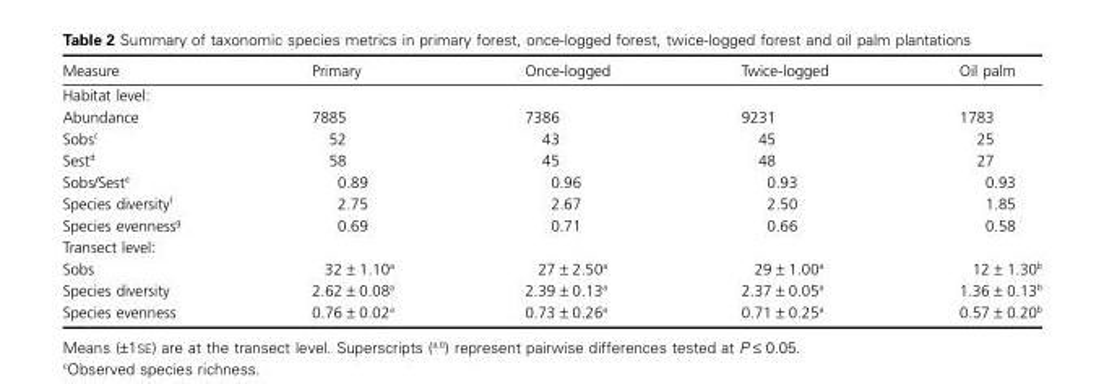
<table><thead><tr><td>Measure</td><td>Primary</td><td>Once-logged</td><td>Twice-logged</td><td>Oil palm</td></tr></thead><tbody><tr><td colspan="5">Habitat level:</td></tr><tr><td>Abundance</td><td>7885</td><td>7386</td><td>9231</td><td>1783</td></tr><tr><td>Sobs<sup>c</sup></td><td>52</td><td>43</td><td>45</td><td>25</td></tr><tr><td>Sest<sup>d</sup></td><td>58</td><td>45</td><td>48</td><td>27</td></tr><tr><td>Sobs/Sest<sup>e</sup></td><td>0.89</td><td>0.96</td><td>0.93</td><td>0.93</td></tr><tr><td>Species diversity<sup>f</sup></td><td>2.75</td><td>2.67</td><td>2.50</td><td>1.85</td></tr><tr><td>Species evenness<sup>g</sup></td><td>0.69</td><td>0.71</td><td>0.66</td><td>0.58</td></tr><tr><td colspan="5">Transect level:</td></tr><tr><td>Sobs</td><td>32 ± 1.10<sup>a</sup></td><td>27 ± 2.50<sup>a</sup></td><td>29 ± 1.00<sup>a</sup></td><td>12 ± 1.30<sup>b</sup></td></tr><tr><td>Species diversity</td><td>2.62 ± 0.08<sup>a</sup></td><td>2.39 ± 0.13<sup>a</sup></td><td>2.37 ± 0.05<sup>a</sup></td><td>1.36 ± 0.13<sup>b</sup></td></tr><tr><td>Species evenness</td><td>0.76 ± 0.02<sup>a</sup></td><td>0.73 ± 0.26<sup>a</sup></td><td>0.71 ± 0.25<sup>a</sup></td><td>0.57 ± 0.20<sup>b</sup></td></tr></tbody></table>